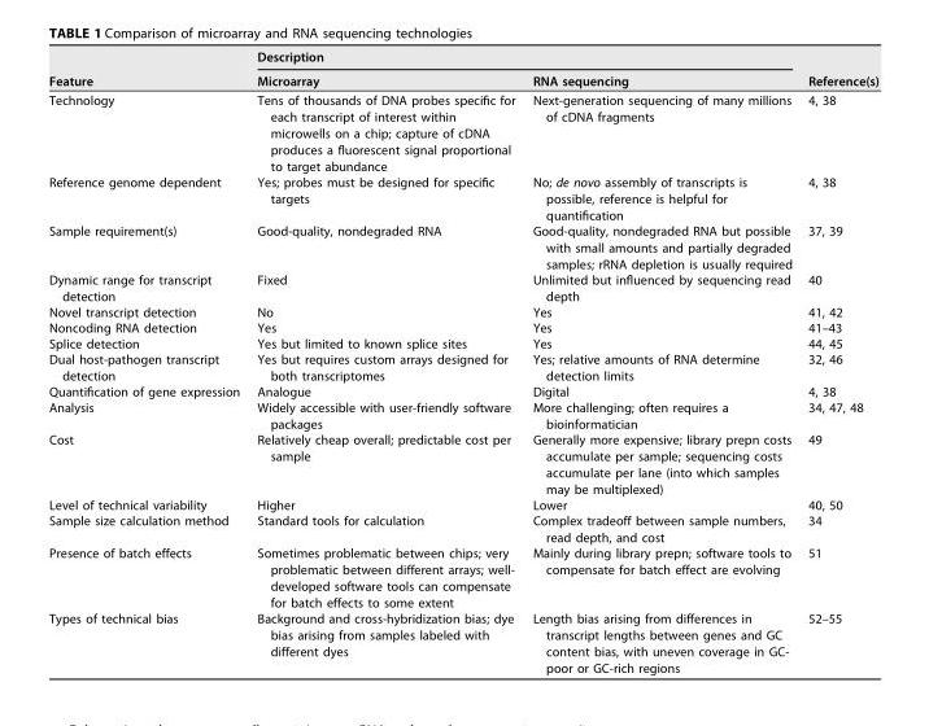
<table><thead><tr><td rowspan="2">Feature</td><td colspan="2">Description</td><td rowspan="2">Reference(s)</td></tr><tr><td>Microarray</td><td>RNA sequencing</td></tr></thead><tbody><tr><td>Technology</td><td>Tens of thousands of DNA probes specific for each transcript of interest within microwells on a chip; capture of cDNA produces a fluorescent signal proportional to target abundance</td><td>Next-generation sequencing of many millions of cDNA fragments</td><td>4, 38</td></tr><tr><td>Reference genome dependent</td><td>Yes; probes must be designed for specific targets</td><td>No; de novo assembly of transcripts is possible, reference is helpful for quantification</td><td>4, 38</td></tr><tr><td>Sample requirement(s)</td><td>Good-quality, nondegraded RNA</td><td>Good-quality, nondegraded RNA but possible with small amounts and partially degraded samples; rRNA depletion is usually required</td><td>37, 39</td></tr><tr><td>Dynamic range for transcript detection</td><td>Fixed</td><td>Unlimited but influenced by sequencing read depth</td><td>40</td></tr><tr><td>Novel transcript detection</td><td>No</td><td>Yes</td><td>41, 42</td></tr><tr><td>Noncoding RNA detection</td><td>Yes</td><td>Yes</td><td>41–43</td></tr><tr><td>Splice detection</td><td>Yes but limited to known splice sites</td><td>Yes</td><td>44, 45</td></tr><tr><td>Dual host-pathogen transcript detection</td><td>Yes but requires custom arrays designed for both transcriptomes</td><td>Yes; relative amounts of RNA determine detection limits</td><td>32, 46</td></tr><tr><td>Quantification of gene expression</td><td>Analogue</td><td>Digital</td><td>4, 38</td></tr><tr><td>Analysis</td><td>Widely accessible with user-friendly software packages</td><td>More challenging; often requires a bioinformatician</td><td>34, 47, 48</td></tr><tr><td>Cost</td><td>Relatively cheap overall; predictable cost per sample</td><td>Generally more expensive; library prepn costs accumulate per sample; sequencing costs accumulate per lane (into which samples may be multiplexed)</td><td>49</td></tr><tr><td>Level of technical variability</td><td>Higher</td><td>Lower</td><td>40, 50</td></tr><tr><td>Sample size calculation method</td><td>Standard tools for calculation</td><td>Complex tradeoff between sample numbers, read depth, and cost</td><td>34</td></tr><tr><td>Presence of batch effects</td><td>Sometimes problematic between chips; very problematic between different arrays; well- developed software tools can compensate for batch effects to some extent</td><td>Mainly during library prepn; software tools to compensate for batch effect are evolving</td><td>51</td></tr><tr><td>Types of technical bias</td><td>Background and cross-hybridization bias; dye bias arising from samples labeled with different dyes</td><td>Length bias arising from differences in transcript lengths between genes and GC content bias, with uneven coverage in GC- poor or GC-rich regions</td><td>52–55</td></tr></tbody></table>